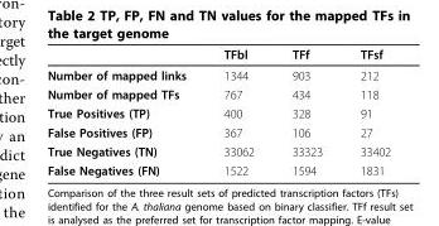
<table><thead><tr><td></td><td>TFbl</td><td>TFf</td><td>TFsf</td></tr></thead><tbody><tr><td>Number of mapped links</td><td>1344</td><td>903</td><td>212</td></tr><tr><td>Number of mapped TFs</td><td>767</td><td>434</td><td>118</td></tr><tr><td>True Positives (TP)</td><td>400</td><td>328</td><td>91</td></tr><tr><td>False Positives (FP)</td><td>367</td><td>106</td><td>27</td></tr><tr><td>True Negatives (TN)</td><td>33062</td><td>33323</td><td>33402</td></tr><tr><td>False Negatives (FN)</td><td>1522</td><td>1594</td><td>1831</td></tr></tbody></table>